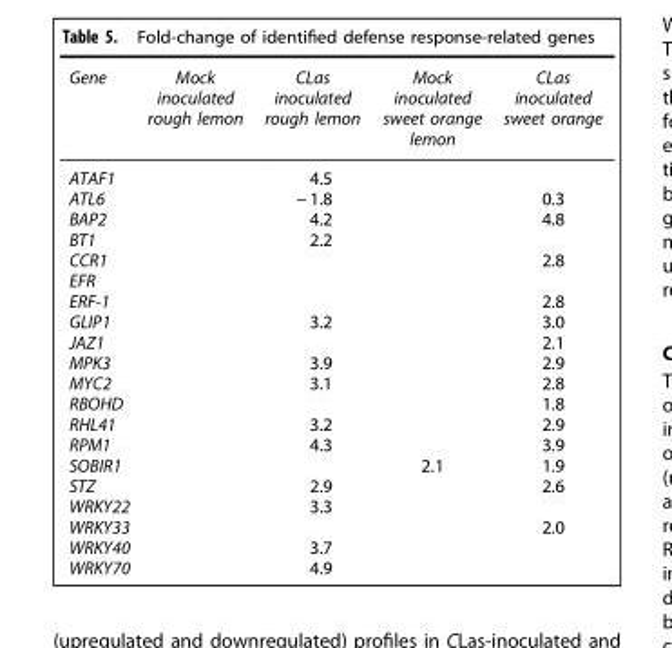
<table><thead><tr><td>Gene</td><td>Mock inoculated rough lemon</td><td>CLas inoculated rough lemon</td><td>Mock inoculated sweet orange lemon</td><td>CLas inoculated sweet orange</td></tr></thead><tbody><tr><td>ATAF1</td><td></td><td>4.5</td><td></td><td></td></tr><tr><td>ATL6</td><td></td><td>− 1.8</td><td></td><td>0.3</td></tr><tr><td>BAP2</td><td></td><td>4.2</td><td></td><td>4.8</td></tr><tr><td>BT1</td><td></td><td>2.2</td><td></td><td></td></tr><tr><td>CCR1</td><td></td><td></td><td></td><td>2.8</td></tr><tr><td colspan="5">EFR</td></tr><tr><td>ERF-1</td><td></td><td></td><td></td><td>2.8</td></tr><tr><td>GLIP1</td><td></td><td>3.2</td><td></td><td>3.0</td></tr><tr><td>JAZ1</td><td></td><td></td><td></td><td>2.1</td></tr><tr><td>MPK3</td><td></td><td>3.9</td><td></td><td>2.9</td></tr><tr><td>MYC2</td><td></td><td>3.1</td><td></td><td>2.8</td></tr><tr><td>RBOHD</td><td></td><td></td><td></td><td>1.8</td></tr><tr><td>RHL41</td><td></td><td>3.2</td><td></td><td>2.9</td></tr><tr><td>RPM1</td><td></td><td>4.3</td><td></td><td>3.9</td></tr><tr><td>SOBIR1</td><td></td><td></td><td>2.1</td><td>1.9</td></tr><tr><td>STZ</td><td></td><td>2.9</td><td></td><td>2.6</td></tr><tr><td>WRKY22</td><td></td><td>3.3</td><td></td><td></td></tr><tr><td>WRKY33</td><td></td><td></td><td></td><td>2.0</td></tr><tr><td>WRKY40</td><td></td><td>3.7</td><td></td><td></td></tr><tr><td>WRKY70</td><td></td><td>4.9</td><td></td><td></td></tr></tbody></table>